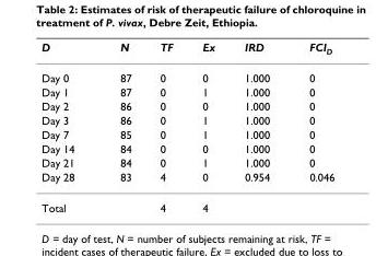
<table><thead><tr><td>D</td><td>N</td><td>TF</td><td>Ex</td><td>IRD</td><td>FCI<sub>D</sub></td></tr></thead><tbody><tr><td>Day 0</td><td>87</td><td>0</td><td>0</td><td>1.000</td><td>0</td></tr><tr><td>Day 1</td><td>87</td><td>0</td><td>1</td><td>1.000</td><td>0</td></tr><tr><td>Day 2</td><td>86</td><td>0</td><td>0</td><td>1.000</td><td>0</td></tr><tr><td>Day 3</td><td>86</td><td>0</td><td>1</td><td>1.000</td><td>0</td></tr><tr><td>Day 7</td><td>85</td><td>0</td><td>1</td><td>1.000</td><td>0</td></tr><tr><td>Day 14</td><td>84</td><td>0</td><td>0</td><td>1.000</td><td>0</td></tr><tr><td>Day 21</td><td>84</td><td>0</td><td>1</td><td>1.000</td><td>0</td></tr><tr><td>Day 28</td><td>83</td><td>4</td><td>0</td><td>0.954</td><td>0.046</td></tr><tr><td>Total</td><td></td><td>4</td><td>4</td><td></td><td></td></tr></tbody></table>